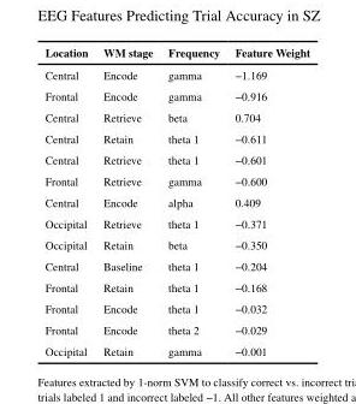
<table><thead><tr><td>Location</td><td>WM stage</td><td>Frequency</td><td>Feature Weight</td></tr></thead><tbody><tr><td>Central</td><td>Encode</td><td>gamma</td><td>−1.169</td></tr><tr><td>Frontal</td><td>Encode</td><td>gamma</td><td>−0.916</td></tr><tr><td>Central</td><td>Retrieve</td><td>beta</td><td>0.704</td></tr><tr><td>Central</td><td>Retain</td><td>theta 1</td><td>−0.611</td></tr><tr><td>Central</td><td>Retrieve</td><td>theta 1</td><td>−0.601</td></tr><tr><td>Frontal</td><td>Retrieve</td><td>gamma</td><td>−0.600</td></tr><tr><td>Central</td><td>Encode</td><td>alpha</td><td>0.409</td></tr><tr><td>Occipital</td><td>Retrieve</td><td>theta 1</td><td>−0.371</td></tr><tr><td>Occipital</td><td>Retain</td><td>beta</td><td>−0.350</td></tr><tr><td>Central</td><td>Baseline</td><td>theta 1</td><td>−0.204</td></tr><tr><td>Frontal</td><td>Retain</td><td>theta 1</td><td>−0.168</td></tr><tr><td>Frontal</td><td>Encode</td><td>theta 1</td><td>−0.032</td></tr><tr><td>Frontal</td><td>Encode</td><td>theta 2</td><td>−0.029</td></tr><tr><td>Occipital</td><td>Retain</td><td>gamma</td><td>−0.001</td></tr></tbody></table>